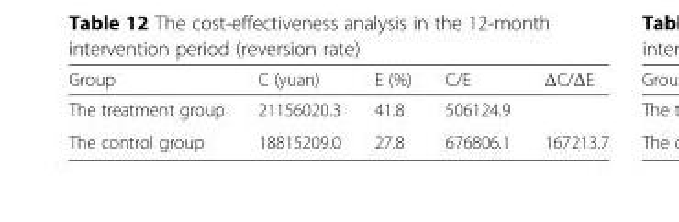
<table><thead><tr><td>Group</td><td>C (yuan)</td><td>E (%)</td><td>C/E</td><td>ΔC/ΔE</td></tr></thead><tbody><tr><td>The treatment group</td><td>21156020.3</td><td>41.8</td><td>506124.9</td><td></td></tr><tr><td>The control group</td><td>18815209.0</td><td>27.8</td><td>676806.1</td><td>167213.7</td></tr></tbody></table>